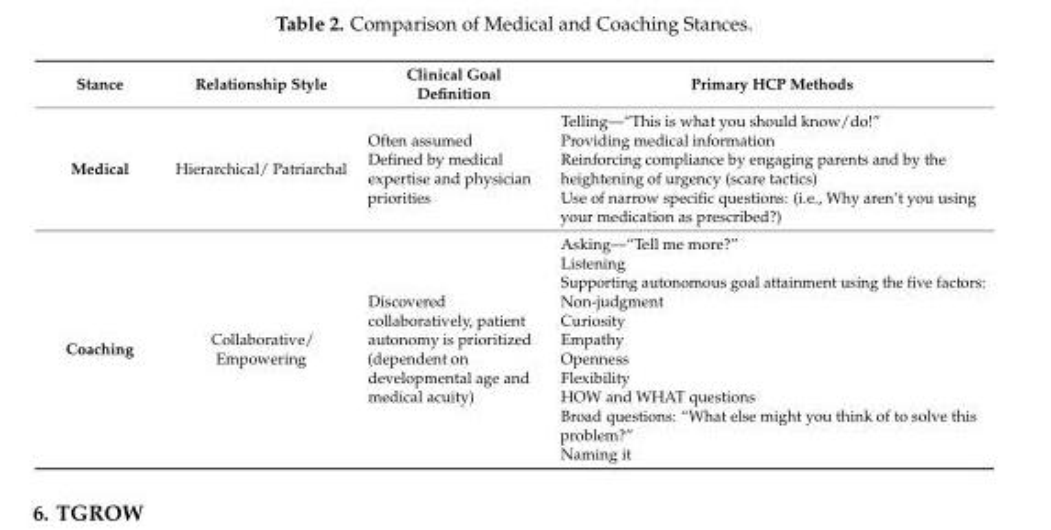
<table><thead><tr><td>Stance</td><td>Relationship Style</td><td>Clinical Goal Definition</td><td>Primary HCP Methods</td></tr></thead><tbody><tr><td>Medical</td><td>Hierarchical/ Patriarchal</td><td>Often assumed Defined by medical expertise and physician priorities</td><td>Telling—“This is what you should know/do!” Providing medical information Reinforcing compliance by engaging parents and by the heightening of urgency (scare tactics) Use of narrow specific questions: (i.e., Why aren’t you using your medication as prescribed?)</td></tr><tr><td>Coaching</td><td>Collaborative/ Empowering</td><td>Discovered collaboratively, patient autonomy is prioritized (dependent on developmental age and medical acuity)</td><td>Asking—“Tell me more?” Listening Supporting autonomous goal attainment using the five factors: Non-judgment Curiosity Empathy Openness Flexibility HOW and WHAT questions Broad questions: “What else might you think of to solve this problem?” Naming it</td></tr></tbody></table>